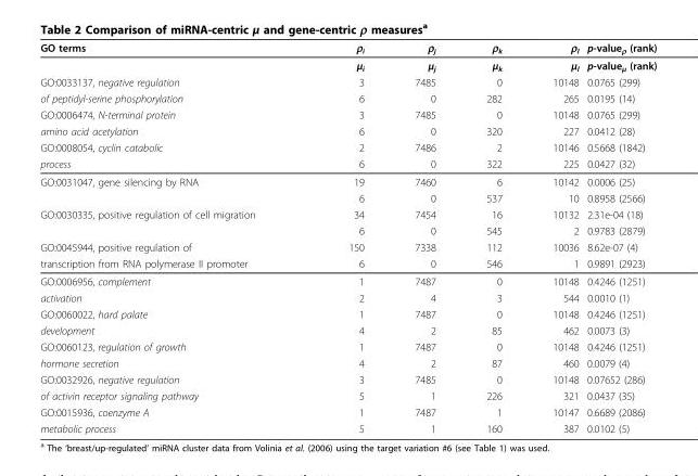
<table><thead><tr><td>GO terms</td><td>ρ<sub>i</sub></td><td>ρ<sub>j</sub></td><td>ρ<sub>k</sub></td><td>ρ<sub>l</sub></td><td>p-value<sub>ρ</sub> (rank)</td></tr></thead><tbody><tr><td></td><td>μ<sub>i</sub></td><td>μ<sub>j</sub></td><td>μ<sub>k</sub></td><td>μ<sub>l</sub></td><td>p-value<sub>μ</sub> (rank)</td></tr><tr><td>GO:0033137, negative regulation</td><td>3</td><td>7485</td><td>0</td><td>10148</td><td>0.0765 (299)</td></tr><tr><td>of peptidyl-serine phosphorylation</td><td>6</td><td>0</td><td>282</td><td>265</td><td>0.0195 (14)</td></tr><tr><td>GO:0006474, N-terminal protein</td><td>3</td><td>7485</td><td>0</td><td>10148</td><td>0.0765 (299)</td></tr><tr><td>amino acid acetylation</td><td>6</td><td>0</td><td>320</td><td>227</td><td>0.0412 (28)</td></tr><tr><td>GO:0008054, cyclin catabolic</td><td>2</td><td>7486</td><td>2</td><td>10146</td><td>0.5668 (1842)</td></tr><tr><td>process</td><td>6</td><td>0</td><td>322</td><td>225</td><td>0.0427 (32)</td></tr><tr><td rowspan="2">GO:0031047, gene silencing by RNA</td><td>19</td><td>7460</td><td>6</td><td>10142</td><td>0.0006 (25)</td></tr><tr><td>6</td><td>0</td><td>537</td><td>10</td><td>0.8958 (2566)</td></tr><tr><td rowspan="2">GO:0030335, positive regulation of cell migration</td><td>34</td><td>7454</td><td>16</td><td>10132</td><td>2.31e-04 (18)</td></tr><tr><td>6</td><td>0</td><td>545</td><td>2</td><td>0.9783 (2879)</td></tr><tr><td>GO:0045944, positive regulation of</td><td>150</td><td>7338</td><td>112</td><td>10036</td><td>8.62e-07 (4)</td></tr><tr><td>transcription from RNA polymerase II promoter</td><td>6</td><td>0</td><td>546</td><td>1</td><td>0.9891 (2923)</td></tr><tr><td>GO:0006956, complement</td><td>1</td><td>7487</td><td>0</td><td>10148</td><td>0.4246 (1251)</td></tr><tr><td>activation</td><td>2</td><td>4</td><td>3</td><td>544</td><td>0.0010 (1)</td></tr><tr><td>GO:0060022, hard palate</td><td>1</td><td>7487</td><td>0</td><td>10148</td><td>0.4246 (1251)</td></tr><tr><td>development</td><td>4</td><td>2</td><td>85</td><td>462</td><td>0.0073 (3)</td></tr><tr><td>GO:0060123, regulation of growth</td><td>1</td><td>7487</td><td>0</td><td>10148</td><td>0.4246 (1251)</td></tr><tr><td>hormone secretion</td><td>4</td><td>2</td><td>87</td><td>460</td><td>0.0079 (4)</td></tr><tr><td>GO:0032926, negative regulation</td><td>3</td><td>7485</td><td>0</td><td>10148</td><td>0.07652 (286)</td></tr><tr><td>of activin receptor signaling pathway</td><td>5</td><td>1</td><td>226</td><td>321</td><td>0.0437 (35)</td></tr><tr><td>GO:0015936, coenzyme A</td><td>1</td><td>7487</td><td>1</td><td>10147</td><td>0.6689 (2086)</td></tr><tr><td>metabolic process</td><td>5</td><td>1</td><td>160</td><td>387</td><td>0.0102 (5)</td></tr></tbody></table>